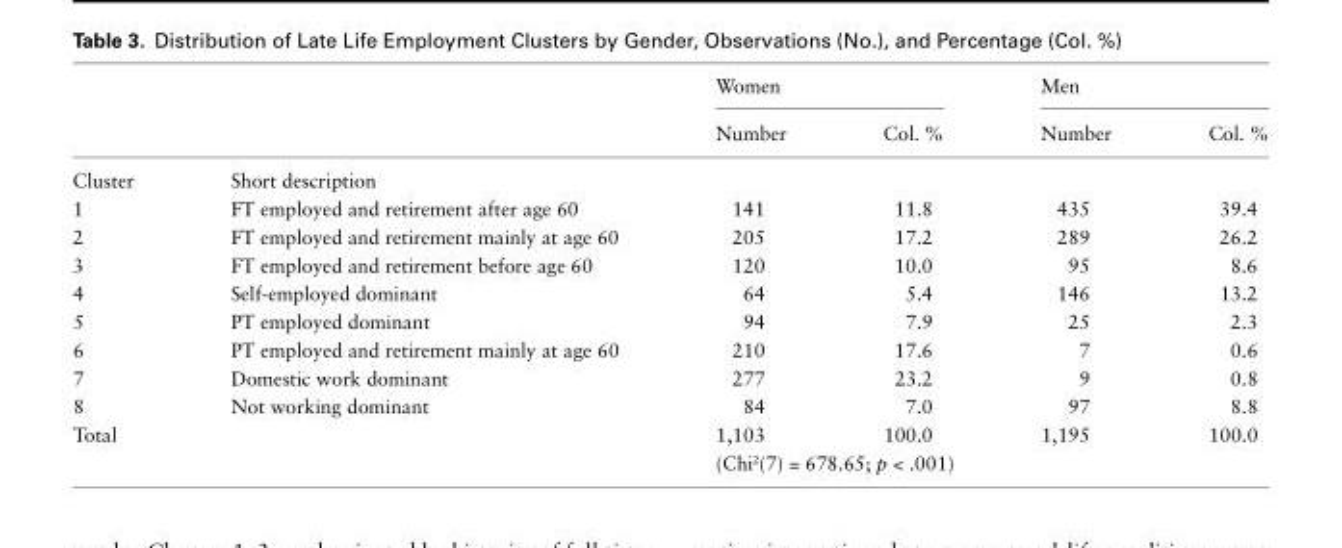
<table><thead><tr><td rowspan="2"></td><td rowspan="2"></td><td colspan="2">Women</td><td colspan="2">Men</td></tr><tr><td>Number</td><td>Col. %</td><td>Number</td><td>Col. %</td></tr></thead><tbody><tr><td>Cluster</td><td colspan="5">Short description</td></tr><tr><td>1</td><td>FT employed and retirement after age 60</td><td>141</td><td>11.8</td><td>435</td><td>39.4</td></tr><tr><td>2</td><td>FT employed and retirement mainly at age 60</td><td>205</td><td>17.2</td><td>289</td><td>26.2</td></tr><tr><td>3</td><td>FT employed and retirement before age 60</td><td>120</td><td>10.0</td><td>95</td><td>8.6</td></tr><tr><td>4</td><td>Self-employed dominant</td><td>64</td><td>5.4</td><td>146</td><td>13.2</td></tr><tr><td>5</td><td>PT employed dominant</td><td>94</td><td>7.9</td><td>25</td><td>2.3</td></tr><tr><td>6</td><td>PT employed and retirement mainly at age 60</td><td>210</td><td>17.6</td><td>7</td><td>0.6</td></tr><tr><td>7</td><td>Domestic work dominant</td><td>277</td><td>23.2</td><td>9</td><td>0.8</td></tr><tr><td>8</td><td>Not working dominant</td><td>84</td><td>7.0</td><td>97</td><td>8.8</td></tr><tr><td rowspan="2">Total</td><td></td><td>1,103</td><td>100.0</td><td>1,195</td><td>100.0</td></tr><tr><td></td><td colspan="4">(Chi<sup>2</sup>(7) = 678.65; p &lt; .001)</td></tr></tbody></table>